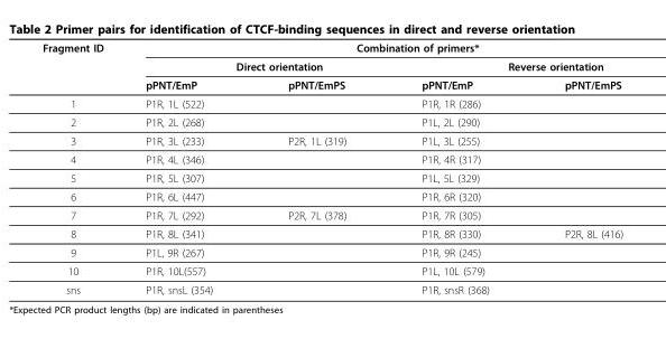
<table><thead><tr><td rowspan="3">Fragment ID</td><td colspan="4">Combination of primers*</td></tr><tr><td colspan="2">Direct orientation</td><td colspan="2">Reverse orientation</td></tr><tr><td>pPNT/EmP</td><td>pPNT/EmPS</td><td>pPNT/EmP</td><td>pPNT/EmPS</td></tr></thead><tbody><tr><td>1</td><td>P1R, 1L (522)</td><td></td><td>P1R, 1R (286)</td><td></td></tr><tr><td>2</td><td>P1R, 2L (268)</td><td></td><td>P1L, 2L (290)</td><td></td></tr><tr><td>3</td><td>P1R, 3L (233)</td><td>P2R, 1L (319)</td><td>P1L, 3L (255)</td><td></td></tr><tr><td>4</td><td>P1R, 4L (346)</td><td></td><td>P1R, 4R (317)</td><td></td></tr><tr><td>5</td><td>P1R, 5L (307)</td><td></td><td>P1L, 5L (329)</td><td></td></tr><tr><td>6</td><td>P1R, 6L (447)</td><td></td><td>P1R, 6R (320)</td><td></td></tr><tr><td>7</td><td>P1R, 7L (292)</td><td>P2R, 7L (378)</td><td>P1R, 7R (305)</td><td></td></tr><tr><td>8</td><td>P1R, 8L (341)</td><td></td><td>P1R, 8R (330)</td><td>P2R, 8L (416)</td></tr><tr><td>9</td><td>P1L, 9R (267)</td><td></td><td>P1R, 9R (245)</td><td></td></tr><tr><td>10</td><td>P1R, 10L(557)</td><td></td><td>P1L, 10L (579)</td><td></td></tr><tr><td>sns</td><td>P1R, snsL (354)</td><td></td><td>P1R, snsR (368)</td><td></td></tr></tbody></table>